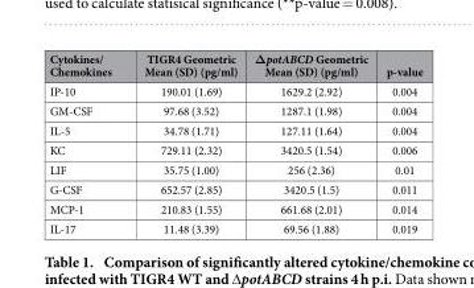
<table><thead><tr><td>Cytokines/ Chemokines</td><td>TIGR4 Geometric Mean (SD) (pg/ml)</td><td>ΔpotABCD Geometric Mean (SD) (pg/ml)</td><td>p-value</td></tr></thead><tbody><tr><td>IP-10</td><td>190.01 (1.69)</td><td>1629.2 (2.92)</td><td>0.004</td></tr><tr><td>GM-CSF</td><td>97.68 (3.52)</td><td>1287.1 (1.98)</td><td>0.004</td></tr><tr><td>IL-5</td><td>34.78 (1.71)</td><td>127.11 (1.64)</td><td>0.004</td></tr><tr><td>KC</td><td>729.11 (2.32)</td><td>3420.5 (1.54)</td><td>0.006</td></tr><tr><td>LIF</td><td>35.75 (1.00)</td><td>256 (2.36)</td><td>0.01</td></tr><tr><td>G-CSF</td><td>652.57 (2.85)</td><td>3420.5 (1.5)</td><td>0.011</td></tr><tr><td>MCP-1</td><td>210.83 (1.55)</td><td>661.68 (2.01)</td><td>0.014</td></tr><tr><td>IL-17</td><td>11.48 (3.39)</td><td>69.56 (1.88)</td><td>0.019</td></tr></tbody></table>